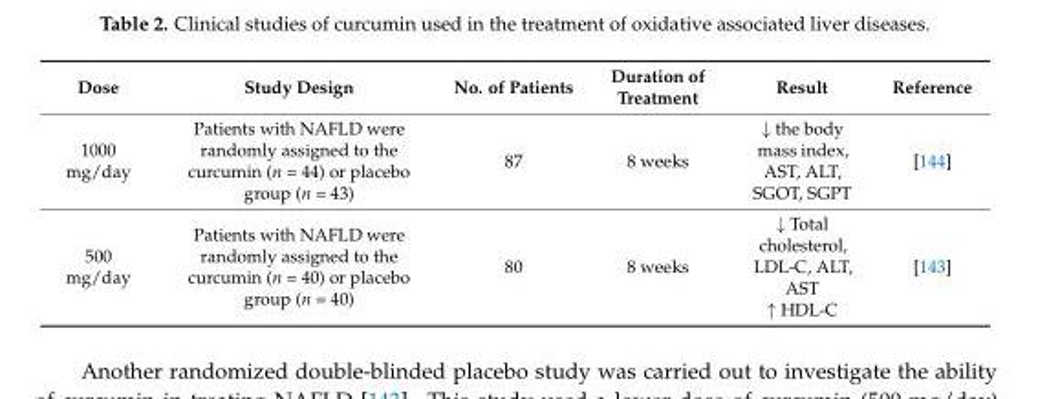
<table><thead><tr><td>Dose</td><td>Study Design</td><td>No. of Patients</td><td>Duration of Treatment</td><td>Result</td><td>Reference</td></tr></thead><tbody><tr><td>1000 mg/day</td><td>Patients with NAFLD were randomly assigned to the curcumin (n = 44) or placebo group (n = 43)</td><td>87</td><td>8 weeks</td><td>↓ the body mass index, AST, ALT, SGOT, SGPT</td><td>[144]</td></tr><tr><td>500 mg/day</td><td>Patients with NAFLD were randomly assigned to the curcumin (n = 40) or placebo group (n = 40)</td><td>80</td><td>8 weeks</td><td>↓ Total cholesterol, LDL-C, ALT, AST ↑ HDL-C</td><td>[143]</td></tr></tbody></table>